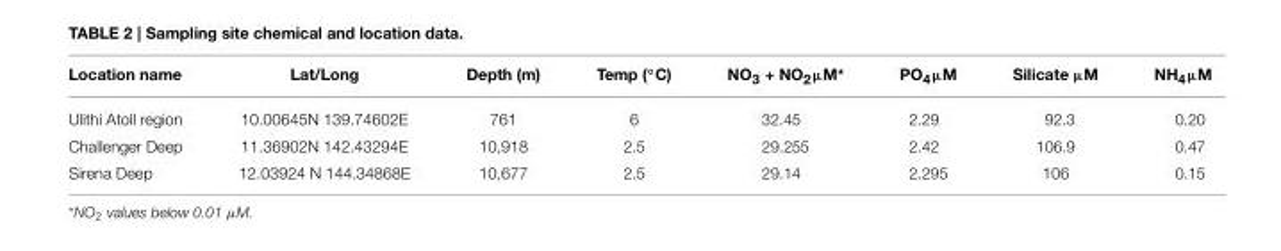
<table><thead><tr><td>Location name</td><td>Lat/Long</td><td>Depth (m)</td><td>Temp (◦C)</td><td>NO<sub>3</sub> + NO<sub>2</sub>µM*</td><td>PO<sub>4</sub>µM</td><td>Silicate µM</td><td>NH<sub>4</sub>µM</td></tr></thead><tbody><tr><td>Ulithi Atoll region</td><td>10.00645N 139.74602E</td><td>761</td><td>6</td><td>32.45</td><td>2.29</td><td>92.3</td><td>0.20</td></tr><tr><td>Challenger Deep</td><td>11.36902N 142.43294E</td><td>10,918</td><td>2.5</td><td>29.255</td><td>2.42</td><td>106.9</td><td>0.47</td></tr><tr><td>Sirena Deep</td><td>12.03924 N 144.34868E</td><td>10,677</td><td>2.5</td><td>29.14</td><td>2.295</td><td>106</td><td>0.15</td></tr></tbody></table>